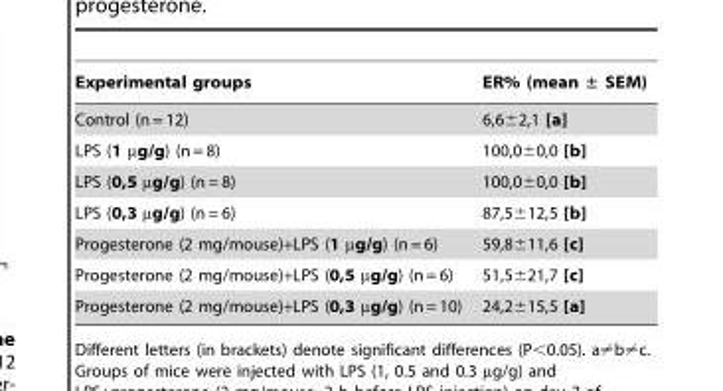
<table><thead><tr><td>Experimental groups</td><td>ER% (mean ± SEM)</td></tr></thead><tbody><tr><td>Control (n = 12)</td><td>6,6±2,1 [a]</td></tr><tr><td>LPS (1 µg/g) (n = 8)</td><td>100,0±0,0 [b]</td></tr><tr><td>LPS (0,5 µg/g) (n = 8)</td><td>100,0±0,0 [b]</td></tr><tr><td>LPS (0,3 µg/g) (n = 6)</td><td>87,5±12,5 [b]</td></tr><tr><td>Progesterone (2 mg/mouse)+LPS (1 µg/g) (n = 6)</td><td>59,8±11,6 [c]</td></tr><tr><td>Progesterone (2 mg/mouse)+LPS (0,5 µg/g) (n = 6)</td><td>51,5±21,7 [c]</td></tr><tr><td>Progesterone (2 mg/mouse)+LPS (0,3 µg/g) (n = 10)</td><td>24,2±15,5 [a]</td></tr></tbody></table>